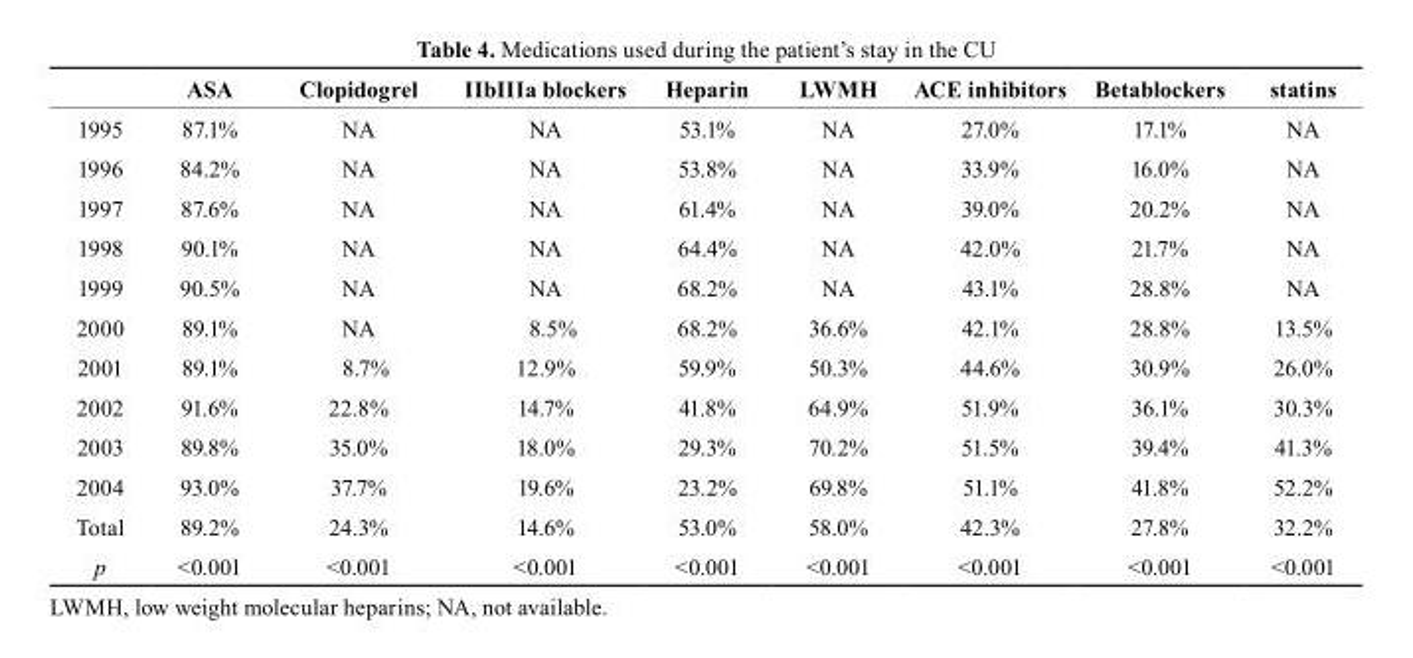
<table><thead><tr><td></td><td>AsA</td><td>clopidogrel</td><td>IIbIIIa blockers</td><td>Heparin</td><td>LWMh</td><td>AcE inhibitors</td><td>betablockers</td><td>statins</td></tr></thead><tbody><tr><td>1995</td><td>87.1%</td><td>NA</td><td>NA</td><td>53.1%</td><td>NA</td><td>27.0%</td><td>17.1%</td><td>NA</td></tr><tr><td>1996</td><td>84.2%</td><td>NA</td><td>NA</td><td>53.8%</td><td>NA</td><td>33.9%</td><td>16.0%</td><td>NA</td></tr><tr><td>1997</td><td>87.6%</td><td>NA</td><td>NA</td><td>61.4%</td><td>NA</td><td>39.0%</td><td>20.2%</td><td>NA</td></tr><tr><td>1998</td><td>90.1%</td><td>NA</td><td>NA</td><td>64.4%</td><td>NA</td><td>42.0%</td><td>21.7%</td><td>NA</td></tr><tr><td>1999</td><td>90.5%</td><td>NA</td><td>NA</td><td>68.2%</td><td>NA</td><td>43.1%</td><td>28.8%</td><td>NA</td></tr><tr><td>2000</td><td>89.1%</td><td>NA</td><td>8.5%</td><td>68.2%</td><td>36.6%</td><td>42.1%</td><td>28.8%</td><td>13.5%</td></tr><tr><td>2001</td><td>89.1%</td><td>8.7%</td><td>12.9%</td><td>59.9%</td><td>50.3%</td><td>44.6%</td><td>30.9%</td><td>26.0%</td></tr><tr><td>2002</td><td>91.6%</td><td>22.8%</td><td>14.7%</td><td>41.8%</td><td>64.9%</td><td>51.9%</td><td>36.1%</td><td>30.3%</td></tr><tr><td>2003</td><td>89.8%</td><td>35.0%</td><td>18.0%</td><td>29.3%</td><td>70.2%</td><td>51.5%</td><td>39.4%</td><td>41.3%</td></tr><tr><td>2004</td><td>93.0%</td><td>37.7%</td><td>19.6%</td><td>23.2%</td><td>69.8%</td><td>51.1%</td><td>41.8%</td><td>52.2%</td></tr><tr><td>Total</td><td>89.2%</td><td>24.3%</td><td>14.6%</td><td>53.0%</td><td>58.0%</td><td>42.3%</td><td>27.8%</td><td>32.2%</td></tr><tr><td>p</td><td>&lt;0.001</td><td>&lt;0.001</td><td>&lt;0.001</td><td>&lt;0.001</td><td>&lt;0.001</td><td>&lt;0.001</td><td>&lt;0.001</td><td>&lt;0.001</td></tr></tbody></table>